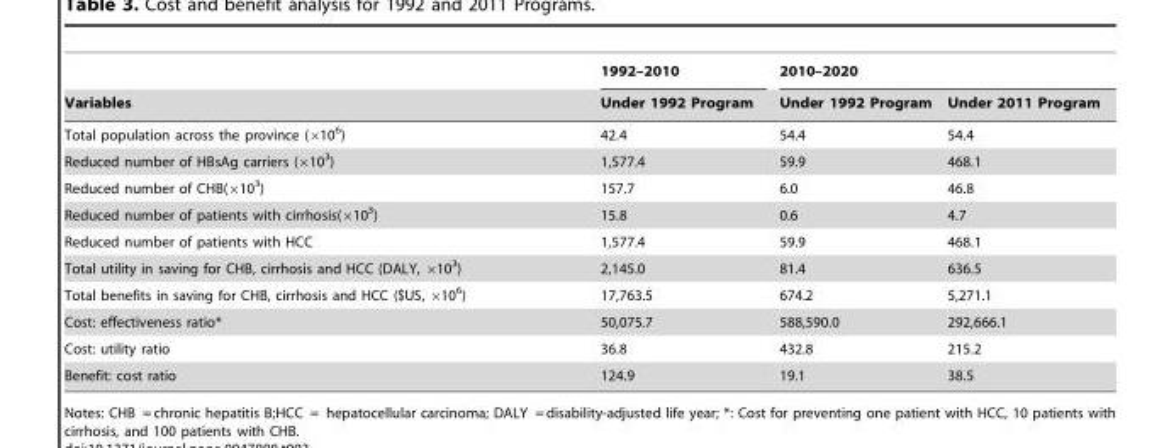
<table><thead><tr><td rowspan="2">Variables</td><td rowspan="2">1992–2010 Under 1992 Program</td><td colspan="2">2010–2020</td></tr><tr><td>Under 1992 Program</td><td>Under 2011 Program</td></tr></thead><tbody><tr><td>Total population across the province (×10<sup>6</sup>)</td><td>42.4</td><td>54.4</td><td>54.4</td></tr><tr><td>Reduced number of HBsAg carriers (×10<sup>3</sup>)</td><td>1,577.4</td><td>59.9</td><td>468.1</td></tr><tr><td>Reduced number of CHB(×10<sup>3</sup>)</td><td>157.7</td><td>6.0</td><td>46.8</td></tr><tr><td>Reduced number of patients with cirrhosis(×10<sup>3</sup>)</td><td>15.8</td><td>0.6</td><td>4.7</td></tr><tr><td>Reduced number of patients with HCC</td><td>1,577.4</td><td>59.9</td><td>468.1</td></tr><tr><td>Total utility in saving for CHB, cirrhosis and HCC (DALY, ×10<sup>3</sup>)</td><td>2,145.0</td><td>81.4</td><td>636.5</td></tr><tr><td>Total benefits in saving for CHB, cirrhosis and HCC ($US, ×10<sup>6</sup>)</td><td>17,763.5</td><td>674.2</td><td>5,271.1</td></tr><tr><td>Cost: effectiveness ratio*</td><td>50,075.7</td><td>588,590.0</td><td>292,666.1</td></tr><tr><td>Cost: utility ratio</td><td>36.8</td><td>432.8</td><td>215.2</td></tr><tr><td>Benefit: cost ratio</td><td>124.9</td><td>19.1</td><td>38.5</td></tr></tbody></table>